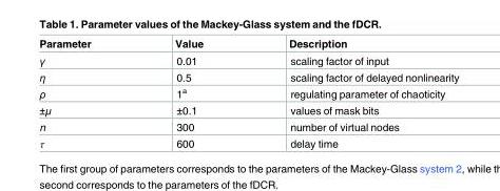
<table><thead><tr><td>Parameter</td><td>Value</td><td>Description</td></tr></thead><tbody><tr><td>γ</td><td>0.01</td><td>scaling factor of input</td></tr><tr><td>η</td><td>0.5</td><td>scaling factor of delayed nonlinearity</td></tr><tr><td>ρ</td><td>1<sup>a</sup></td><td>regulating parameter of chaoticity</td></tr><tr><td>±μ</td><td>±0.1</td><td>values of mask bits</td></tr><tr><td>n</td><td>300</td><td>number of virtual nodes</td></tr><tr><td>τ</td><td>600</td><td>delay time</td></tr></tbody></table>